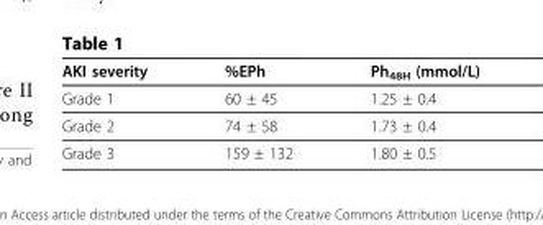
<table><thead><tr><td>AKI severity</td><td>%EPh</td><td>Ph<sub>48H</sub> (mmol/L)</td></tr></thead><tbody><tr><td>Grade 1</td><td>60 ± 45</td><td>1.25 ± 0.4</td></tr><tr><td>Grade 2</td><td>74 ± 58</td><td>1.73 ± 0.4</td></tr><tr><td>Grade 3</td><td>159 ± 132</td><td>1.80 ± 0.5</td></tr></tbody></table>